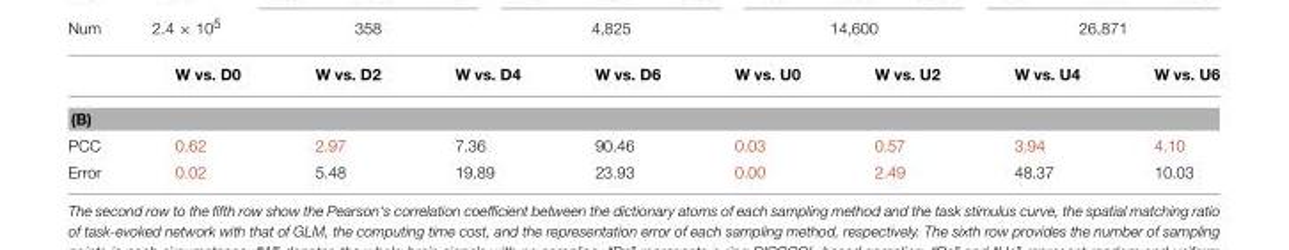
<table><thead><tr><td></td><td>W vs. D0</td><td>W vs. D2</td><td>W vs. D4</td><td>W vs. D6</td><td>W vs. U0</td><td>W vs. U2</td><td>W vs. U4</td><td>W vs. U6</td></tr></thead><tbody><tr><td colspan="9">(B)</td></tr><tr><td>PCC</td><td>0.62</td><td>2.97</td><td>7.36</td><td>90.46</td><td>0.03</td><td>0.57</td><td>3.94</td><td>4.10</td></tr><tr><td>Error</td><td>0.02</td><td>5.48</td><td>19.89</td><td>23.93</td><td>0.00</td><td>2.49</td><td>48.37</td><td>10.03</td></tr></tbody></table>